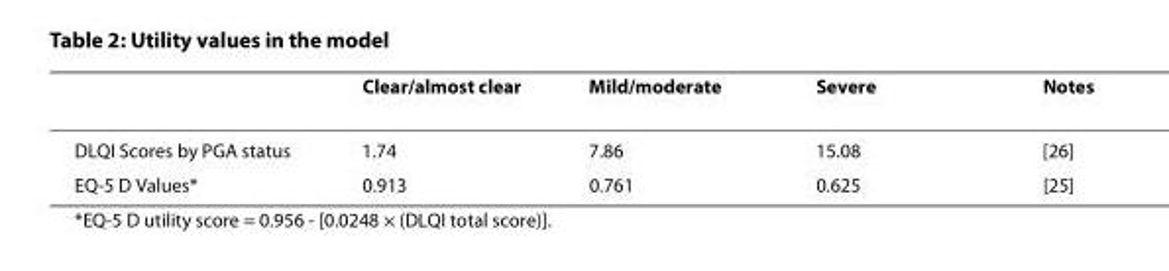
<table><thead><tr><td></td><td>Clear/almost clear</td><td>Mild/moderate</td><td>Severe</td><td>Notes</td></tr></thead><tbody><tr><td>DLQI Scores by PGA status</td><td>1.74</td><td>7.86</td><td>15.08</td><td>[26]</td></tr><tr><td>EQ-5 D Values*</td><td>0.913</td><td>0.761</td><td>0.625</td><td>[25]</td></tr></tbody></table>